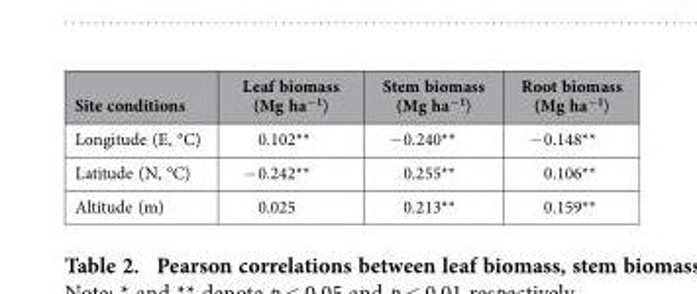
<table><thead><tr><td>Site conditions</td><td>Leaf biomass (Mg ha<sup>−1</sup>)</td><td>Stem biomass (Mg ha<sup>−1</sup>)</td><td>Root biomass (Mg ha<sup>−1</sup>)</td></tr></thead><tbody><tr><td>Longitude (E, °C)</td><td>0.102**</td><td>− 0.240**</td><td>− 0.148**</td></tr><tr><td>Latitude (N, °C)</td><td>− 0.242**</td><td>0.255**</td><td>0.106**</td></tr><tr><td>Altitude (m)</td><td>0.025</td><td>0.213**</td><td>0.159**</td></tr></tbody></table>